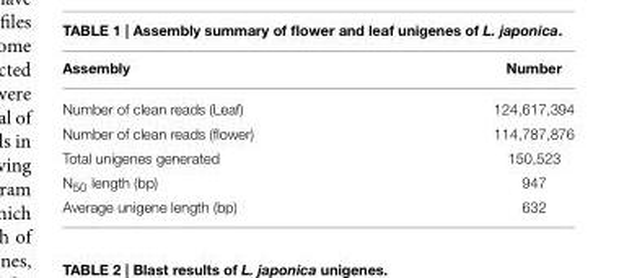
<table><thead><tr><td>Assembly</td><td>Number</td></tr></thead><tbody><tr><td>Number of clean reads (Leaf)</td><td>124,617,394</td></tr><tr><td>Number of clean reads (flower)</td><td>114,787,876</td></tr><tr><td>Total unigenes generated</td><td>150,523</td></tr><tr><td>N<sub>50</sub> length (bp)</td><td>947</td></tr><tr><td>Average unigene length (bp)</td><td>632</td></tr></tbody></table>